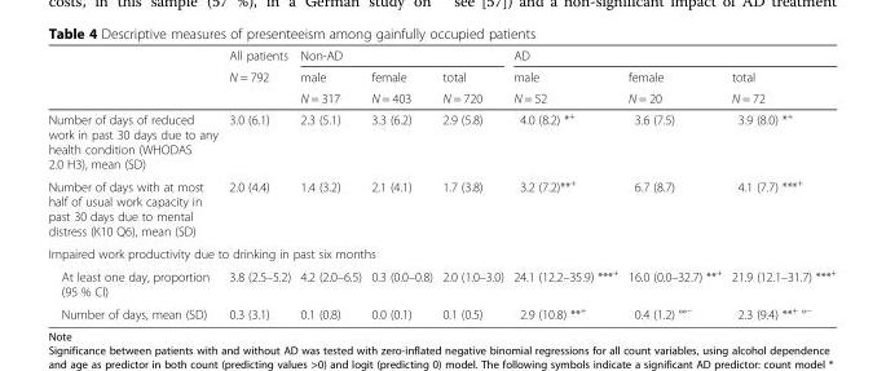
<table><thead><tr><td rowspan="3"></td><td rowspan="3">All patients N = 792</td><td colspan="3">Non-AD</td><td colspan="3">AD</td></tr><tr><td rowspan="2">male N = 317</td><td rowspan="2">female N = 403</td><td rowspan="2">total N = 720</td><td rowspan="2">male N = 52</td><td rowspan="2">female N = 20</td><td rowspan="2">total N = 72</td></tr><tr></tr></thead><tbody><tr><td>Number of days of reduced work in past 30 days due to any health condition (WHODAS 2.0 H3), mean (SD)</td><td>3.0 (6.1)</td><td>2.3 (5.1)</td><td>3.3 (6.2)</td><td>2.9 (5.8)</td><td>4.0 (8.2) *<sup>+</sup></td><td>3.6 (7.5)</td><td>3.9 (8.0) *<sup>+</sup></td></tr><tr><td>Number of days with at most half of usual work capacity in past 30 days due to mental distress (K10 Q6), mean (SD)</td><td>2.0 (4.4)</td><td>1.4 (3.2)</td><td>2.1 (4.1)</td><td>1.7 (3.8)</td><td>3.2 (7.2)**<sup>+</sup></td><td>6.7 (8.7)</td><td>4.1 (7.7) ***<sup>+</sup></td></tr><tr><td colspan="8">Impaired work productivity due to drinking in past six months</td></tr><tr><td>At least one day, proportion (95 % CI)</td><td>3.8 (2.5–5.2)</td><td>4.2 (2.0–6.5)</td><td>0.3 (0.0–0.8)</td><td>2.0 (1.0–3.0)</td><td>24.1 (12.2–35.9) ***<sup>+</sup></td><td>16.0 (0.0–32.7) **<sup>+</sup></td><td>21.9 (12.1–31.7) ***<sup>+</sup></td></tr><tr><td>Number of days, mean (SD)</td><td>0.3 (3.1)</td><td>0.1 (0.8)</td><td>0.0 (0.1)</td><td>0.1 (0.5)</td><td>2.9 (10.8) **<sup>+</sup></td><td>0.4 (1.2) °°<sup>−</sup></td><td>2.3 (9.4) **<sup>+</sup> °<sup>−</sup></td></tr></tbody></table>